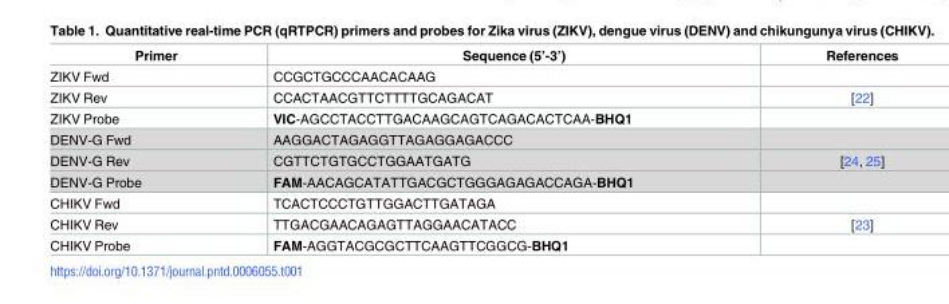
<table><thead><tr><td>Primer</td><td>Sequence (5’-3’)</td><td>References</td></tr></thead><tbody><tr><td>ZIKV Fwd</td><td>CCGCTGCCCAACACAAG</td><td></td></tr><tr><td>ZIKV Rev</td><td>CCACTAACGTTCTTTTGCAGACAT</td><td>[22]</td></tr><tr><td>ZIKV Probe</td><td>VIC-AGCCTACCTTGACAAGCAGTCAGACACTCAA-BHQ1</td><td></td></tr><tr><td>DENV-G Fwd</td><td>AAGGACTAGAGGTTAGAGGAGACCC</td><td></td></tr><tr><td>DENV-G Rev</td><td>CGTTCTGTGCCTGGAATGATG</td><td>[24, 25]</td></tr><tr><td>DENV-G Probe</td><td>FAM-AACAGCATATTGACGCTGGGAGAGACCAGA-BHQ1</td><td></td></tr><tr><td>CHIKV Fwd</td><td>TCACTCCCTGTTGGACTTGATAGA</td><td></td></tr><tr><td>CHIKV Rev</td><td>TTGACGAACAGAGTTAGGAACATACC</td><td>[23]</td></tr><tr><td>CHIKV Probe</td><td>FAM-AGGTACGCGCTTCAAGTTCGGCG-BHQ1</td><td></td></tr></tbody></table>